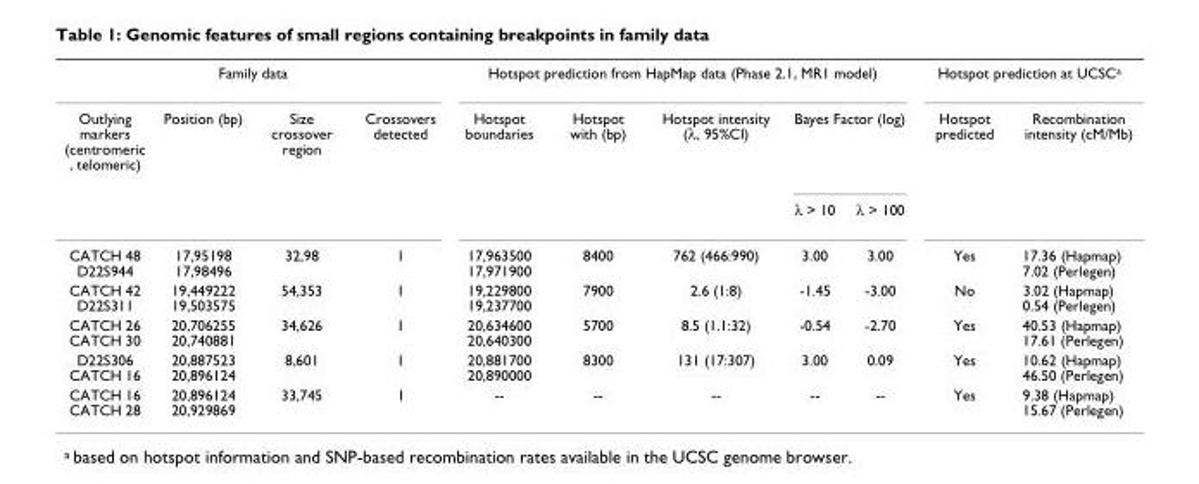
<table><tbody><tr><td colspan="4">Family data</td><td colspan="5">Hotspot prediction from HapMap data (Phase 2.1, MR1 model)</td><td colspan="2">Hotspot prediction at UCSC<sup>a</sup></td></tr><tr><td rowspan="2">Outlying markers (centromeric , telomeric)</td><td>Position (bp)</td><td>Size crossover region</td><td>Crossovers detected</td><td>Hotspot boundaries</td><td>Hotspot with (bp)</td><td>Hotspot intensity (λ, 95%CI)</td><td colspan="2">Bayes Factor (log)</td><td>Hotspot predicted</td><td>Recombination intensity (cM/Mb)</td></tr><tr><td></td><td></td><td></td><td></td><td></td><td></td><td>λ &gt; 10</td><td>λ &gt; 100</td><td></td><td></td></tr><tr><td>CATCH 48 D22S944</td><td>17,95198 17,98496</td><td>32,98</td><td>1</td><td>17,963500 17,971900</td><td>8400</td><td>762 (466:990)</td><td>3.00</td><td>3.00</td><td>Yes</td><td>17.36 (Hapmap) 7.02 (Perlegen)</td></tr><tr><td>CATCH 42 D22S311</td><td>19,449222 19,503575</td><td>54,353</td><td>1</td><td>19,229800 19,237700</td><td>7900</td><td>2.6 (1:8)</td><td>-1.45</td><td>-3.00</td><td>No</td><td>3.02 (Hapmap) 0.54 (Perlegen)</td></tr><tr><td>CATCH 26 CATCH 30</td><td>20,706255 20,740881</td><td>34,626</td><td>1</td><td>20,634600 20,640300</td><td>5700</td><td>8.5 (1.1:32)</td><td>-0.54</td><td>-2.70</td><td>Yes</td><td>40.53 (Hapmap) 17.61 (Perlegen)</td></tr><tr><td>D22S306 CATCH 16</td><td>20,887523 20,896124</td><td>8,601</td><td>1</td><td>20,881700 20,890000</td><td>8300</td><td>131 (17:307)</td><td>3.00</td><td>0.09</td><td>Yes</td><td>10.62 (Hapmap) 46.50 (Perlegen)</td></tr><tr><td>CATCH 16 CATCH 28</td><td>20,896124 20,929869</td><td>33,745</td><td>1</td><td>--</td><td>--</td><td>--</td><td>--</td><td>--</td><td>Yes</td><td>9.38 (Hapmap) 15.67 (Perlegen)</td></tr></tbody></table>